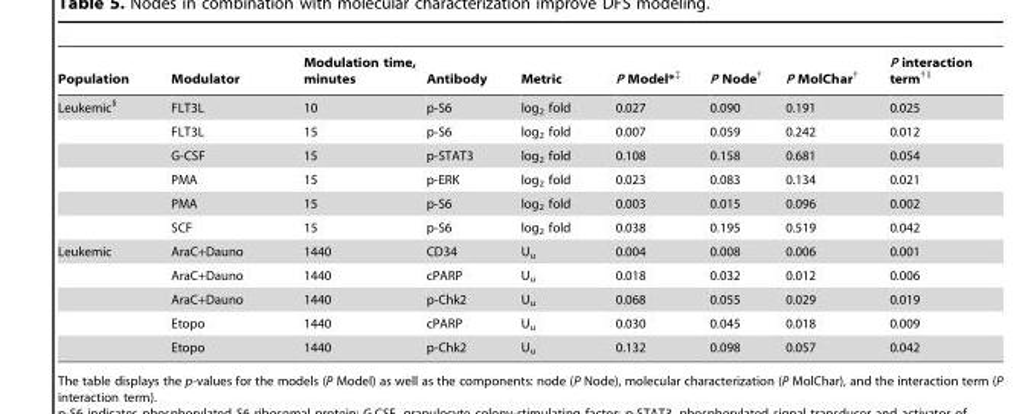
<table><thead><tr><td>Population</td><td>Modulator</td><td>Modulation time, minutes</td><td>Antibody</td><td>Metric</td><td>P Model*‡</td><td>P Node†</td><td>P MolChar†</td><td>P interaction term†∥</td></tr></thead><tbody><tr><td rowspan="6">Leukemic§</td><td>FLT3L</td><td>10</td><td>p-S6</td><td>log<sub>2</sub> fold</td><td>0.027</td><td>0.090</td><td>0.191</td><td>0.025</td></tr><tr><td>FLT3L</td><td>15</td><td>p-S6</td><td>log<sub>2</sub> fold</td><td>0.007</td><td>0.059</td><td>0.242</td><td>0.012</td></tr><tr><td>G-CSF</td><td>15</td><td>p-STAT3</td><td>log<sub>2</sub> fold</td><td>0.108</td><td>0.158</td><td>0.681</td><td>0.054</td></tr><tr><td>PMA</td><td>15</td><td>p-ERK</td><td>log<sub>2</sub> fold</td><td>0.023</td><td>0.083</td><td>0.134</td><td>0.021</td></tr><tr><td>PMA</td><td>15</td><td>p-S6</td><td>log<sub>2</sub> fold</td><td>0.003</td><td>0.015</td><td>0.096</td><td>0.002</td></tr><tr><td>SCF</td><td>15</td><td>p-S6</td><td>log<sub>2</sub> fold</td><td>0.038</td><td>0.195</td><td>0.519</td><td>0.042</td></tr><tr><td rowspan="5">Leukemic</td><td>AraC+Dauno</td><td>1440</td><td>CD34</td><td>U<sub>u</sub></td><td>0.004</td><td>0.008</td><td>0.006</td><td>0.001</td></tr><tr><td>AraC+Dauno</td><td>1440</td><td>cPARP</td><td>U<sub>u</sub></td><td>0.018</td><td>0.032</td><td>0.012</td><td>0.006</td></tr><tr><td>AraC+Dauno</td><td>1440</td><td>p-Chk2</td><td>U<sub>u</sub></td><td>0.068</td><td>0.055</td><td>0.029</td><td>0.019</td></tr><tr><td>Etopo</td><td>1440</td><td>cPARP</td><td>U<sub>u</sub></td><td>0.030</td><td>0.045</td><td>0.018</td><td>0.009</td></tr><tr><td>Etopo</td><td>1440</td><td>p-Chk2</td><td>U<sub>u</sub></td><td>0.132</td><td>0.098</td><td>0.057</td><td>0.042</td></tr></tbody></table>